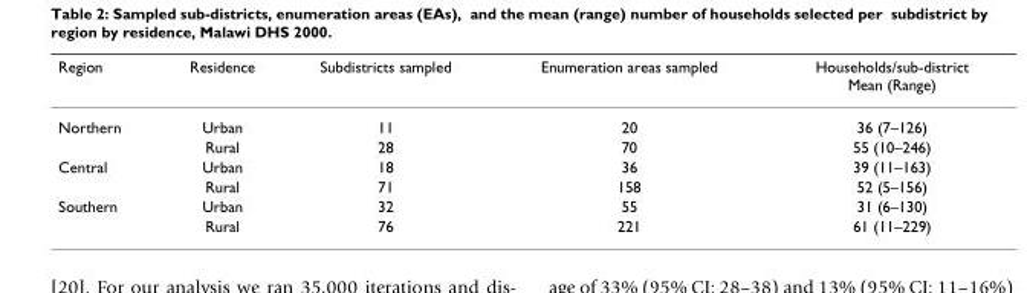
<table><thead><tr><td>Region</td><td>Residence</td><td>Subdistricts sampled</td><td>Enumeration areas sampled</td><td>Households/sub-district Mean (Range)</td></tr></thead><tbody><tr><td rowspan="2">Northern</td><td>Urban</td><td>11</td><td>20</td><td>36 (7–126)</td></tr><tr><td>Rural</td><td>28</td><td>70</td><td>55 (10–246)</td></tr><tr><td rowspan="2">Central</td><td>Urban</td><td>18</td><td>36</td><td>39 (11–163)</td></tr><tr><td>Rural</td><td>71</td><td>158</td><td>52 (5–156)</td></tr><tr><td rowspan="2">Southern</td><td>Urban</td><td>32</td><td>55</td><td>31 (6–130)</td></tr><tr><td>Rural</td><td>76</td><td>221</td><td>61 (11–229)</td></tr></tbody></table>